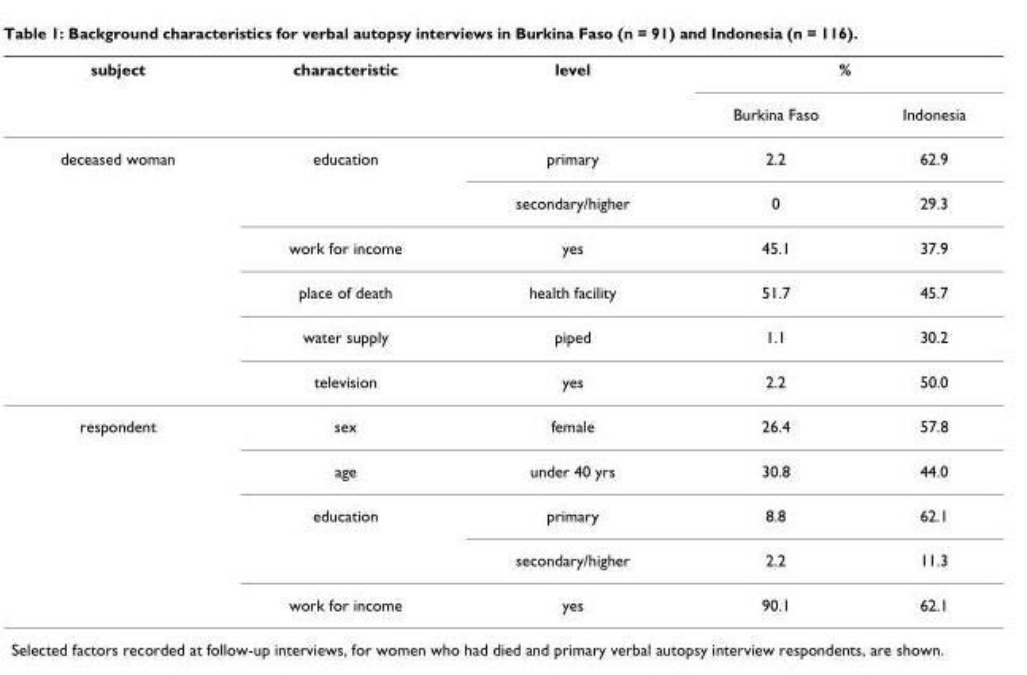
<table><thead><tr><td rowspan="2">subject</td><td rowspan="2">characteristic</td><td rowspan="2">level</td><td colspan="2">%</td></tr><tr><td>Burkina Faso</td><td>Indonesia</td></tr></thead><tbody><tr><td rowspan="6">deceased woman</td><td>education</td><td>primary</td><td>2.2</td><td>62.9</td></tr><tr><td></td><td>secondary/higher</td><td>0</td><td>29.3</td></tr><tr><td>work for income</td><td>yes</td><td>45.1</td><td>37.9</td></tr><tr><td>place of death</td><td>health facility</td><td>51.7</td><td>45.7</td></tr><tr><td>water supply</td><td>piped</td><td>1.1</td><td>30.2</td></tr><tr><td>television</td><td>yes</td><td>2.2</td><td>50.0</td></tr><tr><td rowspan="5">respondent</td><td>sex</td><td>female</td><td>26.4</td><td>57.8</td></tr><tr><td>age</td><td>under 40 yrs</td><td>30.8</td><td>44.0</td></tr><tr><td>education</td><td>primary</td><td>8.8</td><td>62.1</td></tr><tr><td></td><td>secondary/higher</td><td>2.2</td><td>11.3</td></tr><tr><td>work for income</td><td>yes</td><td>90.1</td><td>62.1</td></tr></tbody></table>